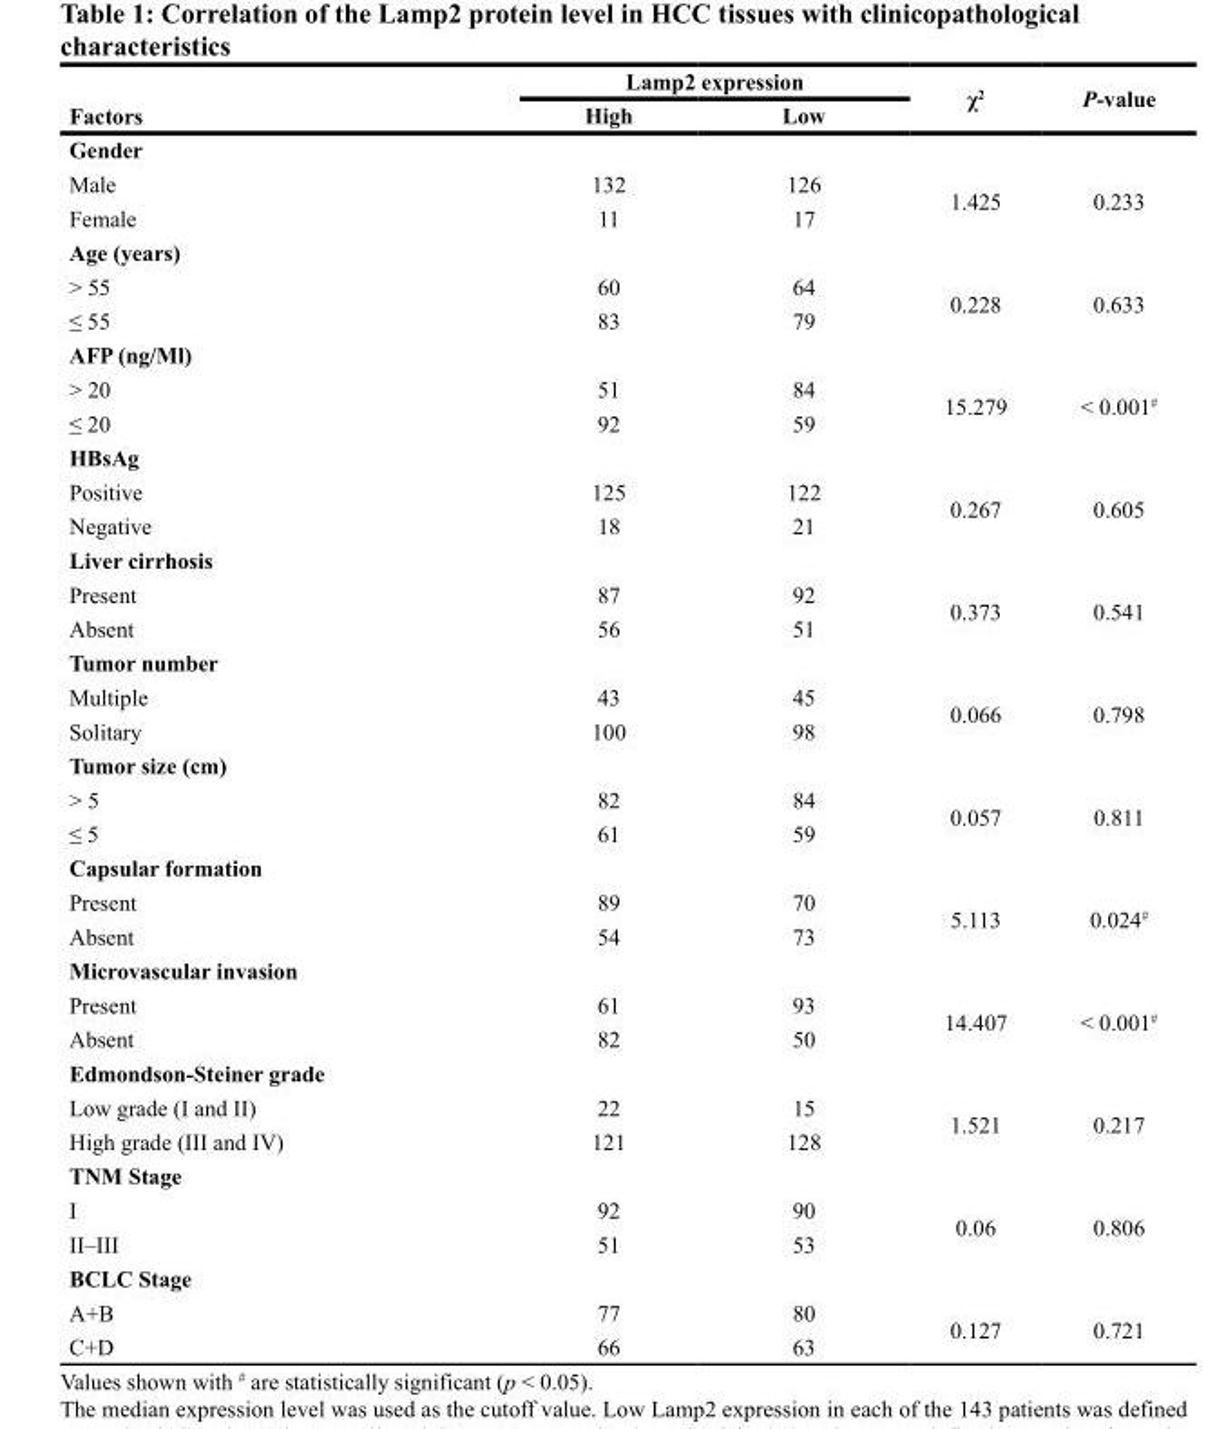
<table><thead><tr><td rowspan="2">Factors</td><td colspan="2">Lamp2 expression</td><td rowspan="2">χ<sup>2</sup></td><td rowspan="2">P-value</td></tr><tr><td>High</td><td>Low</td></tr></thead><tbody><tr><td colspan="5">Gender</td></tr><tr><td>Male</td><td>132</td><td>126</td><td rowspan="2">1.425</td><td rowspan="2">0.233</td></tr><tr><td>Female</td><td>11</td><td>17</td></tr><tr><td colspan="5">Age (years)</td></tr><tr><td>&gt; 55</td><td>60</td><td>64</td><td rowspan="2">0.228</td><td rowspan="2">0.633</td></tr><tr><td>≤ 55</td><td>83</td><td>79</td></tr><tr><td colspan="5">AFP (ng/Ml)</td></tr><tr><td>&gt; 20</td><td>51</td><td>84</td><td rowspan="2">15.279</td><td rowspan="2">&lt; 0.001<sup>#</sup></td></tr><tr><td>≤ 20</td><td>92</td><td>59</td></tr><tr><td colspan="5">HBsAg</td></tr><tr><td>Positive</td><td>125</td><td>122</td><td rowspan="2">0.267</td><td rowspan="2">0.605</td></tr><tr><td>Negative</td><td>18</td><td>21</td></tr><tr><td colspan="5">Liver cirrhosis</td></tr><tr><td>Present</td><td>87</td><td>92</td><td rowspan="2">0.373</td><td rowspan="2">0.541</td></tr><tr><td>Absent</td><td>56</td><td>51</td></tr><tr><td colspan="5">Tumor number</td></tr><tr><td>Multiple</td><td>43</td><td>45</td><td rowspan="2">0.066</td><td rowspan="2">0.798</td></tr><tr><td>Solitary</td><td>100</td><td>98</td></tr><tr><td colspan="5">Tumor size (cm)</td></tr><tr><td>&gt; 5</td><td>82</td><td>84</td><td rowspan="2">0.057</td><td rowspan="2">0.811</td></tr><tr><td>≤ 5</td><td>61</td><td>59</td></tr><tr><td colspan="5">Capsular formation</td></tr><tr><td>Present</td><td>89</td><td>70</td><td rowspan="2">5.113</td><td rowspan="2">0.024<sup>#</sup></td></tr><tr><td>Absent</td><td>54</td><td>73</td></tr><tr><td colspan="5">Microvascular invasion</td></tr><tr><td>Present</td><td>61</td><td>93</td><td rowspan="2">14.407</td><td rowspan="2">&lt; 0.001<sup>#</sup></td></tr><tr><td>Absent</td><td>82</td><td>50</td></tr><tr><td colspan="5">Edmondson-Steiner grade</td></tr><tr><td>Low grade (I and II)</td><td>22</td><td>15</td><td rowspan="2">1.521</td><td rowspan="2">0.217</td></tr><tr><td>High grade (III and IV)</td><td>121</td><td>128</td></tr><tr><td colspan="5">TNM Stage</td></tr><tr><td>I</td><td>92</td><td>90</td><td rowspan="2">0.06</td><td rowspan="2">0.806</td></tr><tr><td>II–III</td><td>51</td><td>53</td></tr><tr><td colspan="5">BCLC Stage</td></tr><tr><td>A+B</td><td>77</td><td>80</td><td rowspan="2">0.127</td><td rowspan="2">0.721</td></tr><tr><td>C+D</td><td>66</td><td>63</td></tr></tbody></table>